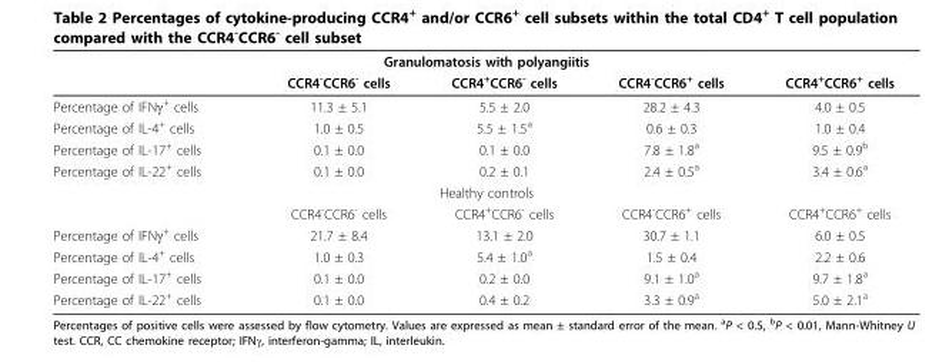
<table><thead><tr><td colspan="5">Granulomatosis with polyangiitis</td></tr><tr><td></td><td>CCR4<sup>-</sup>CCR6<sup>-</sup> cells</td><td>CCR4<sup>+</sup>CCR6<sup>-</sup> cells</td><td>CCR4<sup>-</sup>CCR6<sup>+</sup> cells</td><td>CCR4<sup>+</sup>CCR6<sup>+</sup> cells</td></tr></thead><tbody><tr><td>Percentage of IFNγ<sup>+</sup> cells</td><td>11.3 ± 5.1</td><td>5.5 ± 2.0</td><td>28.2 ± 4.3</td><td>4.0 ± 0.5</td></tr><tr><td>Percentage of IL-4<sup>+</sup> cells</td><td>1.0 ± 0.5</td><td>5.5 ± 1.5<sup>a</sup></td><td>0.6 ± 0.3</td><td>1.0 ± 0.4</td></tr><tr><td>Percentage of IL-17<sup>+</sup> cells</td><td>0.1 ± 0.0</td><td>0.1 ± 0.0</td><td>7.8 ± 1.8<sup>a</sup></td><td>9.5 ± 0.9<sup>b</sup></td></tr><tr><td>Percentage of IL-22<sup>+</sup> cells</td><td>0.1 ± 0.0</td><td>0.2 ± 0.1</td><td>2.4 ± 0.5<sup>a</sup></td><td>3.4 ± 0.6<sup>a</sup></td></tr><tr><td colspan="5">Healthy controls</td></tr><tr><td></td><td>CCR4<sup>-</sup>CCR6<sup>-</sup> cells</td><td>CCR4<sup>+</sup>CCR6<sup>-</sup> cells</td><td>CCR4<sup>-</sup>CCR6<sup>+</sup> cells</td><td>CCR4<sup>+</sup>CCR6<sup>+</sup> cells</td></tr><tr><td>Percentage of IFNγ<sup>+</sup> cells</td><td>21.7 ± 8.4</td><td>13.1 ± 2.0</td><td>30.7 ± 1.1</td><td>6.0 ± 0.5</td></tr><tr><td>Percentage of IL-4<sup>+</sup> cells</td><td>1.0 ± 0.3</td><td>5.4 ± 1.0<sup>a</sup></td><td>1.5 ± 0.4</td><td>2.2 ± 0.6</td></tr><tr><td>Percentage of IL-17<sup>+</sup> cells</td><td>0.1 ± 0.0</td><td>0.2 ± 0.0</td><td>9.1 ± 1.0<sup>a</sup></td><td>9.7 ± 1.8<sup>a</sup></td></tr><tr><td>Percentage of IL-22<sup>+</sup> cells</td><td>0.1 ± 0.0</td><td>0.4 ± 0.2</td><td>3.3 ± 0.9<sup>a</sup></td><td>5.0 ± 2.1<sup>a</sup></td></tr></tbody></table>